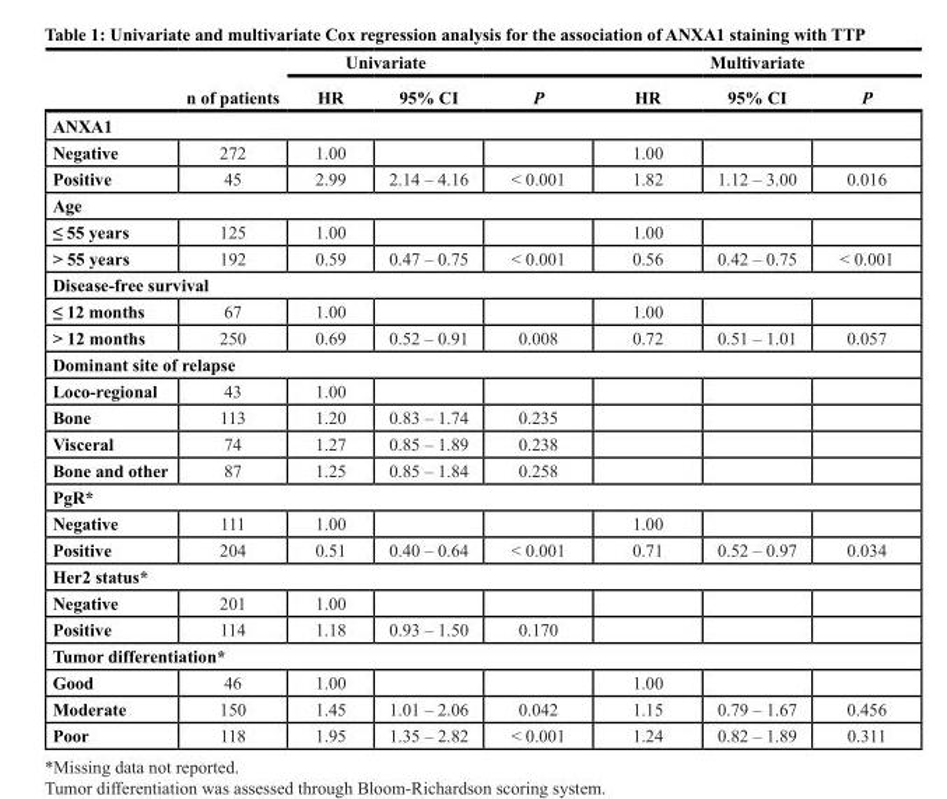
<table><thead><tr><td rowspan="2"></td><td rowspan="2">n of patients</td><td colspan="3">Univariate</td><td colspan="3">Multivariate</td></tr><tr><td>HR</td><td>95% CI</td><td>P</td><td>HR</td><td>95% CI</td><td>P</td></tr></thead><tbody><tr><td colspan="8">ANXA1</td></tr><tr><td>Negative</td><td>272</td><td>1.00</td><td></td><td></td><td>1.00</td><td></td><td></td></tr><tr><td>Positive</td><td>45</td><td>2.99</td><td>2.14 – 4.16</td><td>&lt; 0.001</td><td>1.82</td><td>1.12 – 3.00</td><td>0.016</td></tr><tr><td colspan="8">Age</td></tr><tr><td>≤ 55 years</td><td>125</td><td>1.00</td><td></td><td></td><td>1.00</td><td></td><td></td></tr><tr><td>&gt; 55 years</td><td>192</td><td>0.59</td><td>0.47 – 0.75</td><td>&lt; 0.001</td><td>0.56</td><td>0.42 – 0.75</td><td>&lt; 0.001</td></tr><tr><td colspan="8">Disease-free survival</td></tr><tr><td>≤ 12 months</td><td>67</td><td>1.00</td><td></td><td></td><td>1.00</td><td></td><td></td></tr><tr><td>&gt; 12 months</td><td>250</td><td>0.69</td><td>0.52 – 0.91</td><td>0.008</td><td>0.72</td><td>0.51 – 1.01</td><td>0.057</td></tr><tr><td colspan="8">Dominant site of relapse</td></tr><tr><td>Loco-regional</td><td>43</td><td>1.00</td><td></td><td></td><td></td><td></td><td></td></tr><tr><td>Bone</td><td>113</td><td>1.20</td><td>0.83 – 1.74</td><td>0.235</td><td></td><td></td><td></td></tr><tr><td>Visceral</td><td>74</td><td>1.27</td><td>0.85 – 1.89</td><td>0.238</td><td></td><td></td><td></td></tr><tr><td>Bone and other</td><td>87</td><td>1.25</td><td>0.85 – 1.84</td><td>0.258</td><td></td><td></td><td></td></tr><tr><td colspan="8">PgR*</td></tr><tr><td>Negative</td><td>111</td><td>1.00</td><td></td><td></td><td>1.00</td><td></td><td></td></tr><tr><td>Positive</td><td>204</td><td>0.51</td><td>0.40 – 0.64</td><td>&lt; 0.001</td><td>0.71</td><td>0.52 – 0.97</td><td>0.034</td></tr><tr><td colspan="8">Her2 status*</td></tr><tr><td>Negative</td><td>201</td><td>1.00</td><td></td><td></td><td></td><td></td><td></td></tr><tr><td>Positive</td><td>114</td><td>1.18</td><td>0.93 – 1.50</td><td>0.170</td><td></td><td></td><td></td></tr><tr><td colspan="8">Tumor differentiation*</td></tr><tr><td>Good</td><td>46</td><td>1.00</td><td></td><td></td><td>1.00</td><td></td><td></td></tr><tr><td>Moderate</td><td>150</td><td>1.45</td><td>1.01 – 2.06</td><td>0.042</td><td>1.15</td><td>0.79 – 1.67</td><td>0.456</td></tr><tr><td>Poor</td><td>118</td><td>1.95</td><td>1.35 – 2.82</td><td>&lt; 0.001</td><td>1.24</td><td>0.82 – 1.89</td><td>0.311</td></tr></tbody></table>